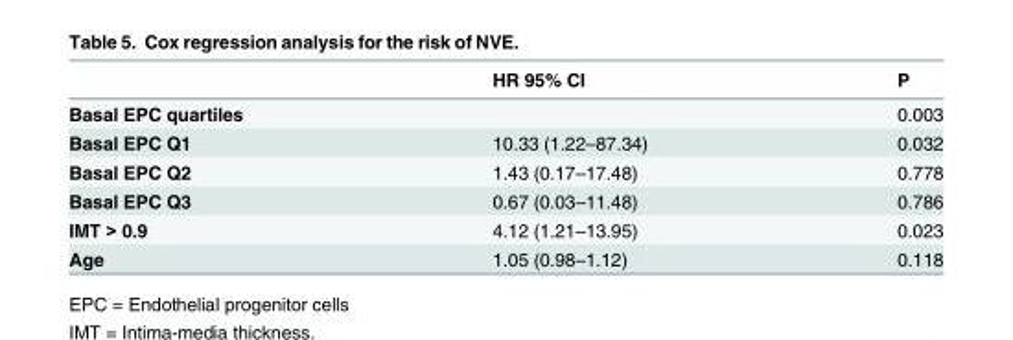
<table><thead><tr><td></td><td>HR 95% CI</td><td>P</td></tr></thead><tbody><tr><td>Basal EPC quartiles</td><td></td><td>0.003</td></tr><tr><td>Basal EPC Q1</td><td>10.33 (1.22–87.34)</td><td>0.032</td></tr><tr><td>Basal EPC Q2</td><td>1.43 (0.17–17.48)</td><td>0.778</td></tr><tr><td>Basal EPC Q3</td><td>0.67 (0.03–11.48)</td><td>0.786</td></tr><tr><td>IMT &gt; 0.9</td><td>4.12 (1.21–13.95)</td><td>0.023</td></tr><tr><td>Age</td><td>1.05 (0.98–1.12)</td><td>0.118</td></tr></tbody></table>